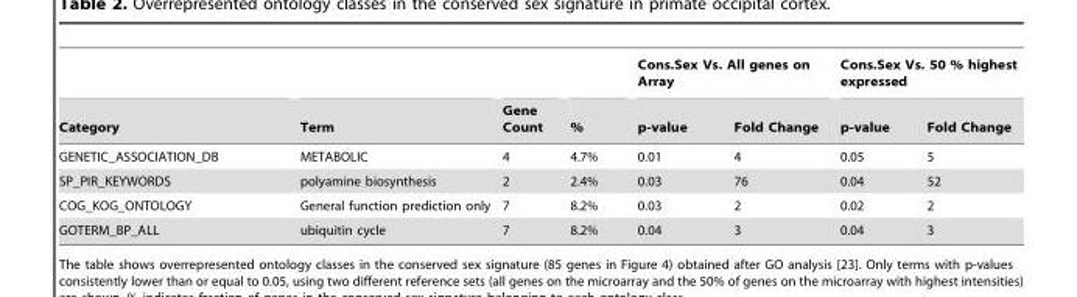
<table><thead><tr><td rowspan="2">Category</td><td rowspan="2">Term</td><td rowspan="2">Gene Count</td><td rowspan="2">%</td><td colspan="2">Cons.Sex Vs. All genes on Array</td><td colspan="2">Cons.Sex Vs. 50 % highest expressed</td></tr><tr><td>p-value</td><td>Fold Change</td><td>p-value</td><td>Fold Change</td></tr></thead><tbody><tr><td>GENETIC_ASSOCIATION_DB</td><td>METABOLIC</td><td>4</td><td>4.7%</td><td>0.01</td><td>4</td><td>0.05</td><td>5</td></tr><tr><td>SP_PIR_KEYWORDS</td><td>polyamine biosynthesis</td><td>2</td><td>2.4%</td><td>0.03</td><td>76</td><td>0.04</td><td>52</td></tr><tr><td>COG_KOG_ONTOLOGY</td><td>General function prediction only</td><td>7</td><td>8.2%</td><td>0.03</td><td>2</td><td>0.02</td><td>2</td></tr><tr><td>GOTERM_BP_ALL</td><td>ubiquitin cycle</td><td>7</td><td>8.2%</td><td>0.04</td><td>3</td><td>0.04</td><td>3</td></tr></tbody></table>